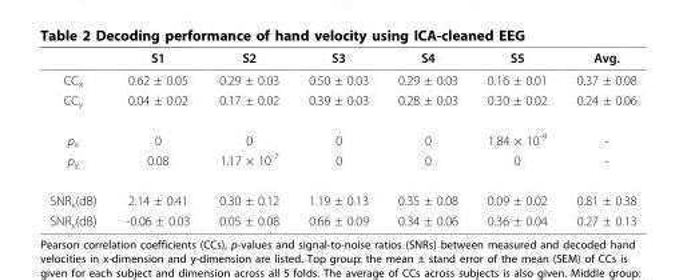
<table><thead><tr><td></td><td>S1</td><td>S2</td><td>S3</td><td>S4</td><td>S5</td><td>Avg.</td></tr></thead><tbody><tr><td>CC<sub>x</sub></td><td>0.62 ± 0.05</td><td>0.29 ± 0.03</td><td>0.50 ± 0.03</td><td>0.29 ± 0.03</td><td>0.16 ± 0.01</td><td>0.37 ± 0.08</td></tr><tr><td>CC<sub>y</sub></td><td>0.04 ± 0.02</td><td>0.17 ± 0.02</td><td>0.39 ± 0.03</td><td>0.28 ± 0.03</td><td>0.30 ± 0.02</td><td>0.24 ± 0.06</td></tr><tr><td>p<sub>x</sub></td><td>0</td><td>0</td><td>0</td><td>0</td><td>1.84 × 10<sup>-9</sup></td><td>-</td></tr><tr><td>p<sub>y</sub></td><td>0.08</td><td>1.17 × 10<sup>-7</sup></td><td>0</td><td>0</td><td>0</td><td>-</td></tr><tr><td>SNR<sub>x</sub>(dB)</td><td>2.14 ± 0.41</td><td>0.30 ± 0.12</td><td>1.19 ± 0.13</td><td>0.35 ± 0.08</td><td>0.09 ± 0.02</td><td>0.81 ± 0.38</td></tr><tr><td>SNR<sub>y</sub>(dB)</td><td>-0.06 ± 0.03</td><td>0.05 ± 0.08</td><td>0.66 ± 0.09</td><td>0.34 ± 0.06</td><td>0.36 ± 0.04</td><td>0.27 ± 0.13</td></tr></tbody></table>